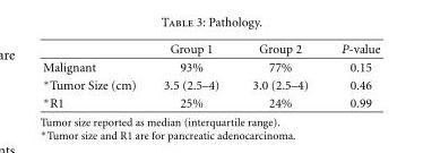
<table><thead><tr><td></td><td>Group 1</td><td>Group 2</td><td>P-value</td></tr></thead><tbody><tr><td>Malignant</td><td>93%</td><td>77%</td><td>0.15</td></tr><tr><td>∗Tumor Size (cm)</td><td>3.5 (2.5–4)</td><td>3.0 (2.5–4)</td><td>0.46</td></tr><tr><td>∗R1</td><td>25%</td><td>24%</td><td>0.99</td></tr></tbody></table>